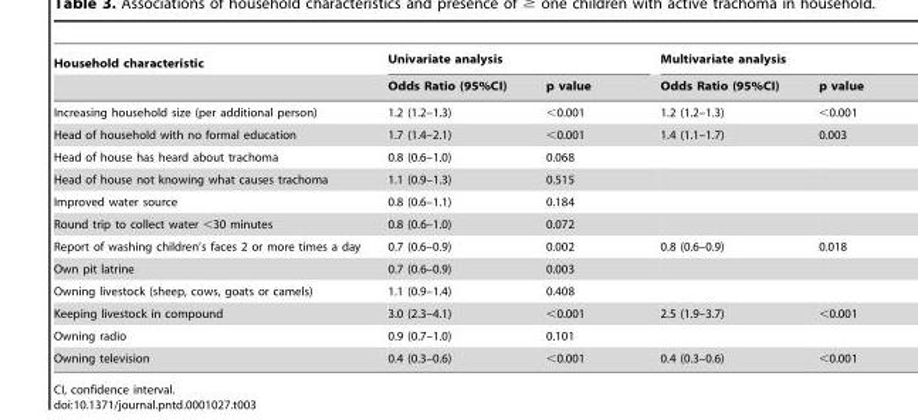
<table><thead><tr><td rowspan="2">Household characteristic</td><td colspan="2">Univariate analysis</td><td colspan="2">Multivariate analysis</td></tr><tr><td>Odds Ratio (95%CI)</td><td>p value</td><td>Odds Ratio (95%CI)</td><td>p value</td></tr></thead><tbody><tr><td>Increasing household size (per additional person)</td><td>1.2 (1.2–1.3)</td><td>&lt;0.001</td><td>1.2 (1.2–1.3)</td><td>&lt;0.001</td></tr><tr><td>Head of household with no formal education</td><td>1.7 (1.4–2.1)</td><td>&lt;0.001</td><td>1.4 (1.1–1.7)</td><td>0.003</td></tr><tr><td>Head of house has heard about trachoma</td><td>0.8 (0.6–1.0)</td><td>0.068</td><td></td><td></td></tr><tr><td>Head of house not knowing what causes trachoma</td><td>1.1 (0.9–1.3)</td><td>0.515</td><td></td><td></td></tr><tr><td>Improved water source</td><td>0.8 (0.6–1.1)</td><td>0.184</td><td></td><td></td></tr><tr><td>Round trip to collect water &lt;30 minutes</td><td>0.8 (0.6–1.0)</td><td>0.072</td><td></td><td></td></tr><tr><td>Report of washing children’s faces 2 or more times a day</td><td>0.7 (0.6–0.9)</td><td>0.002</td><td>0.8 (0.6–0.9)</td><td>0.018</td></tr><tr><td>Own pit latrine</td><td>0.7 (0.6–0.9)</td><td>0.003</td><td></td><td></td></tr><tr><td>Owning livestock (sheep, cows, goats or camels)</td><td>1.1 (0.9–1.4)</td><td>0.408</td><td></td><td></td></tr><tr><td>Keeping livestock in compound</td><td>3.0 (2.3–4.1)</td><td>&lt;0.001</td><td>2.5 (1.9–3.7)</td><td>&lt;0.001</td></tr><tr><td>Owning radio</td><td>0.9 (0.7–1.0)</td><td>0.101</td><td></td><td></td></tr><tr><td>Owning television</td><td>0.4 (0.3–0.6)</td><td>&lt;0.001</td><td>0.4 (0.3–0.6)</td><td>&lt;0.001</td></tr></tbody></table>